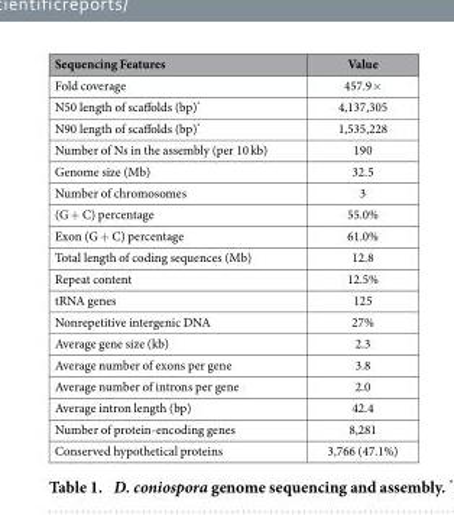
<table><thead><tr><td>Sequencing Features</td><td>Value</td></tr></thead><tbody><tr><td>Fold coverage</td><td>457.9×</td></tr><tr><td>N50 length of scaffolds (bp)*</td><td>4,137,305</td></tr><tr><td>N90 length of scaffolds (bp)*</td><td>1,535,228</td></tr><tr><td>Number of Ns in the assembly (per 10 kb)</td><td>190</td></tr><tr><td>Genome size (Mb)</td><td>32.5</td></tr><tr><td>Number of chromosomes</td><td>3</td></tr><tr><td>(G + C) percentage</td><td>55.0%</td></tr><tr><td>Exon (G + C) percentage</td><td>61.0%</td></tr><tr><td>Total length of coding sequences (Mb)</td><td>12.8</td></tr><tr><td>Repeat content</td><td>12.5%</td></tr><tr><td>tRNA genes</td><td>125</td></tr><tr><td>Nonrepetitive intergenic DNA</td><td>27%</td></tr><tr><td>Average gene size (kb)</td><td>2.3</td></tr><tr><td>Average number of exons per gene</td><td>3.8</td></tr><tr><td>Average number of introns per gene</td><td>2.0</td></tr><tr><td>Average intron length (bp)</td><td>42.4</td></tr><tr><td>Number of protein-encoding genes</td><td>8,281</td></tr><tr><td>Conserved hypothetical proteins</td><td>3,766 (47.1%)</td></tr></tbody></table>